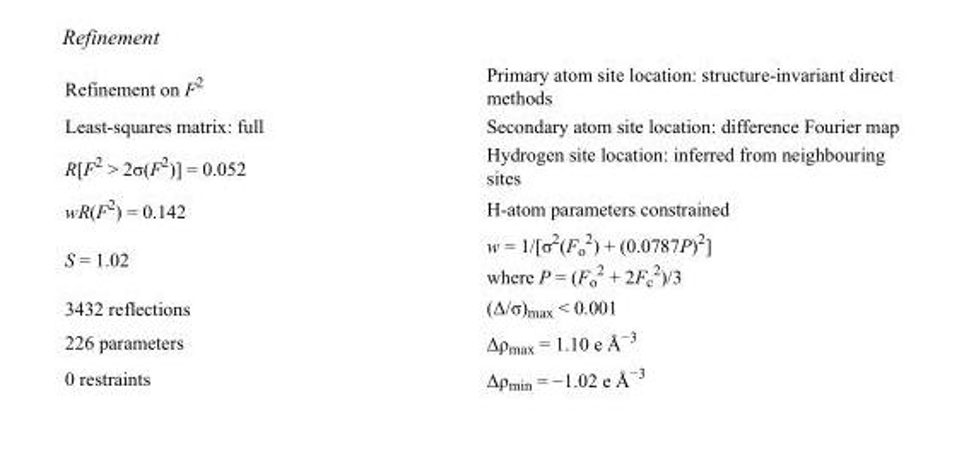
<table><tbody><tr><td>Refinement on F<sup>2</sup></td><td>Primary atom site location: structure-invariant direct methods</td></tr><tr><td>Least-squares matrix: full</td><td>Secondary atom site location: difference Fourier map</td></tr><tr><td>R[F<sup>2</sup> &gt; 2σ(F<sup>2</sup>)] = 0.052</td><td>Hydrogen site location: inferred from neighbouring sites</td></tr><tr><td>wR(F<sup>2</sup>) = 0.142</td><td>H-atom parameters constrained</td></tr><tr><td>S = 1.02</td><td>w = 1/[σ<sup>2</sup>(F<sub>o</sub> <sup>2</sup>) + (0.0787P)<sup>2</sup>] where P = (F<sub>o</sub> <sup>2</sup> + 2F<sub>c</sub> <sup>2</sup>)/3</td></tr><tr><td>3432 reflections</td><td>(Δ/σ)<sub>max</sub> &lt; 0.001</td></tr><tr><td>226 parameters</td><td>Δρ<sub>max</sub> = 1.10 e Å<sup>−3</sup></td></tr><tr><td>0 restraints</td><td>Δρ<sub>min</sub> = −1.02 e Å<sup>−3</sup></td></tr></tbody></table>